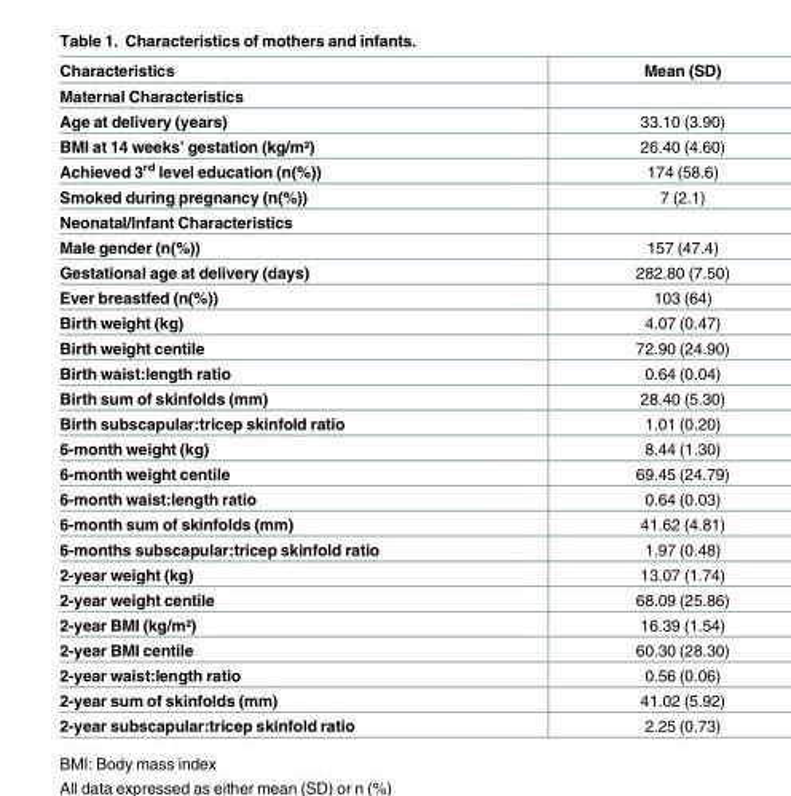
<table><thead><tr><td>Characteristics</td><td>Mean (SD)</td></tr></thead><tbody><tr><td colspan="2">Maternal Characteristics</td></tr><tr><td>Age at delivery (years)</td><td>33.10 (3.90)</td></tr><tr><td>BMI at 14 weeks’ gestation (kg/m²)</td><td>26.40 (4.60)</td></tr><tr><td>Achieved 3<sup>rd</sup> level education (n(%))</td><td>174 (58.6)</td></tr><tr><td>Smoked during pregnancy (n(%))</td><td>7 (2.1)</td></tr><tr><td colspan="2">Neonatal/Infant Characteristics</td></tr><tr><td>Male gender (n(%))</td><td>157 (47.4)</td></tr><tr><td>Gestational age at delivery (days)</td><td>282.80 (7.50)</td></tr><tr><td>Ever breastfed (n(%))</td><td>103 (64)</td></tr><tr><td>Birth weight (kg)</td><td>4.07 (0.47)</td></tr><tr><td>Birth weight centile</td><td>72.90 (24.90)</td></tr><tr><td>Birth waist:length ratio</td><td>0.64 (0.04)</td></tr><tr><td>Birth sum of skinfolds (mm)</td><td>28.40 (5.30)</td></tr><tr><td>Birth subscapular:tricep skinfold ratio</td><td>1.01 (0.20)</td></tr><tr><td>6-month weight (kg)</td><td>8.44 (1.30)</td></tr><tr><td>6-month weight centile</td><td>69.45 (24.79)</td></tr><tr><td>6-month waist:length ratio</td><td>0.64 (0.03)</td></tr><tr><td>6-month sum of skinfolds (mm)</td><td>41.62 (4.81)</td></tr><tr><td>6-months subscapular:tricep skinfold ratio</td><td>1.97 (0.48)</td></tr><tr><td>2-year weight (kg)</td><td>13.07 (1.74)</td></tr><tr><td>2-year weight centile</td><td>68.09 (25.86)</td></tr><tr><td>2-year BMI (kg/m²)</td><td>16.39 (1.54)</td></tr><tr><td>2-year BMI centile</td><td>60.30 (28.30)</td></tr><tr><td>2-year waist:length ratio</td><td>0.56 (0.06)</td></tr><tr><td>2-year sum of skinfolds (mm)</td><td>41.02 (5.92)</td></tr><tr><td>2-year subscapular:tricep skinfold ratio</td><td>2.25 (0.73)</td></tr></tbody></table>